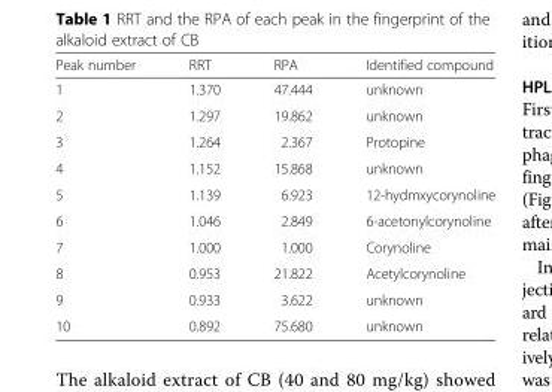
<table><thead><tr><td>Peak number</td><td>RRT</td><td>RPA</td><td>Identified compound</td></tr></thead><tbody><tr><td>1</td><td>1.370</td><td>47.444</td><td>unknown</td></tr><tr><td>2</td><td>1.297</td><td>19.862</td><td>unknown</td></tr><tr><td>3</td><td>1.264</td><td>2.367</td><td>Protopine</td></tr><tr><td>4</td><td>1.152</td><td>15.868</td><td>unknown</td></tr><tr><td>5</td><td>1.139</td><td>6.923</td><td>12-hydmxycorynoline</td></tr><tr><td>6</td><td>1.046</td><td>2.849</td><td>6-acetonylcorynoline</td></tr><tr><td>7</td><td>1.000</td><td>1.000</td><td>Corynoline</td></tr><tr><td>8</td><td>0.953</td><td>21.822</td><td>Acetylcorynoline</td></tr><tr><td>9</td><td>0.933</td><td>3.622</td><td>unknown</td></tr><tr><td>10</td><td>0.892</td><td>75.680</td><td>unknown</td></tr></tbody></table>